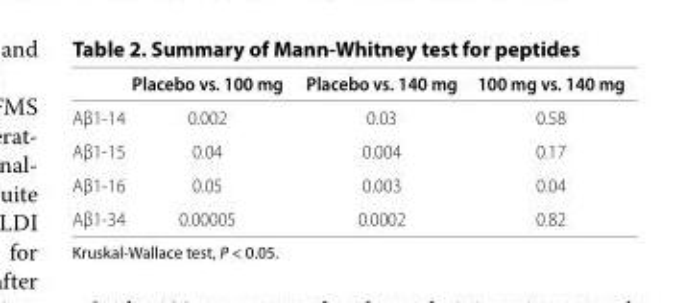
<table><thead><tr><td></td><td>Placebo vs. 100 mg</td><td>Placebo vs. 140 mg</td><td>100 mg vs. 140 mg</td></tr></thead><tbody><tr><td>Aβ1-14</td><td>0.002</td><td>0.03</td><td>0.58</td></tr><tr><td>Aβ1-15</td><td>0.04</td><td>0.004</td><td>0.17</td></tr><tr><td>Aβ1-16</td><td>0.05</td><td>0.003</td><td>0.04</td></tr><tr><td>Aβ1-34</td><td>0.00005</td><td>0.0002</td><td>0.82</td></tr></tbody></table>